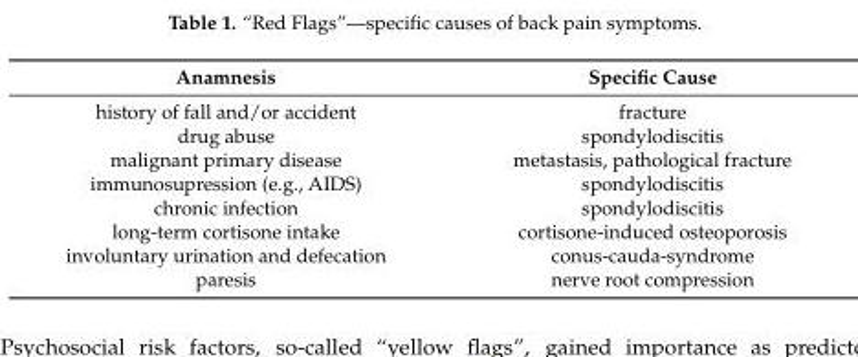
<table><thead><tr><td>Anamnesis</td><td>Specific Cause</td></tr></thead><tbody><tr><td>history of fall and/or accident</td><td>fracture</td></tr><tr><td>drug abuse</td><td>spondylodiscitis</td></tr><tr><td>malignant primary disease</td><td>metastasis, pathological fracture</td></tr><tr><td>immunosupression (e.g., AIDS)</td><td>spondylodiscitis</td></tr><tr><td>chronic infection</td><td>spondylodiscitis</td></tr><tr><td>long-term cortisone intake</td><td>cortisone-induced osteoporosis</td></tr><tr><td>involuntary urination and defecation</td><td>conus-cauda-syndrome</td></tr><tr><td>paresis</td><td>nerve root compression</td></tr></tbody></table>